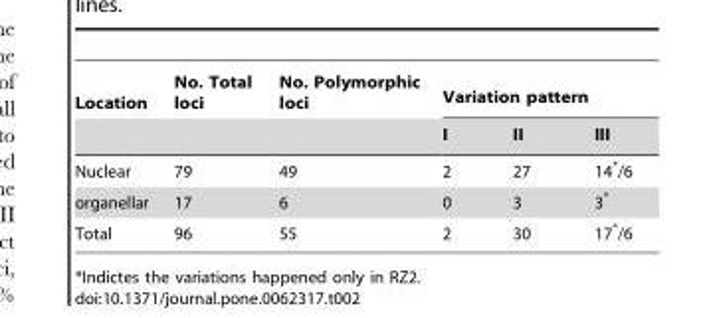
<table><thead><tr><td rowspan="2">Location</td><td rowspan="2">No. Total loci</td><td rowspan="2">No. Polymorphic loci</td><td colspan="3">Variation pattern</td></tr><tr><td>I</td><td>II</td><td>III</td></tr></thead><tbody><tr><td>Nuclear</td><td>79</td><td>49</td><td>2</td><td>27</td><td>14*/6</td></tr><tr><td>organellar</td><td>17</td><td>6</td><td>0</td><td>3</td><td>3*</td></tr><tr><td>Total</td><td>96</td><td>55</td><td>2</td><td>30</td><td>17*/6</td></tr></tbody></table>